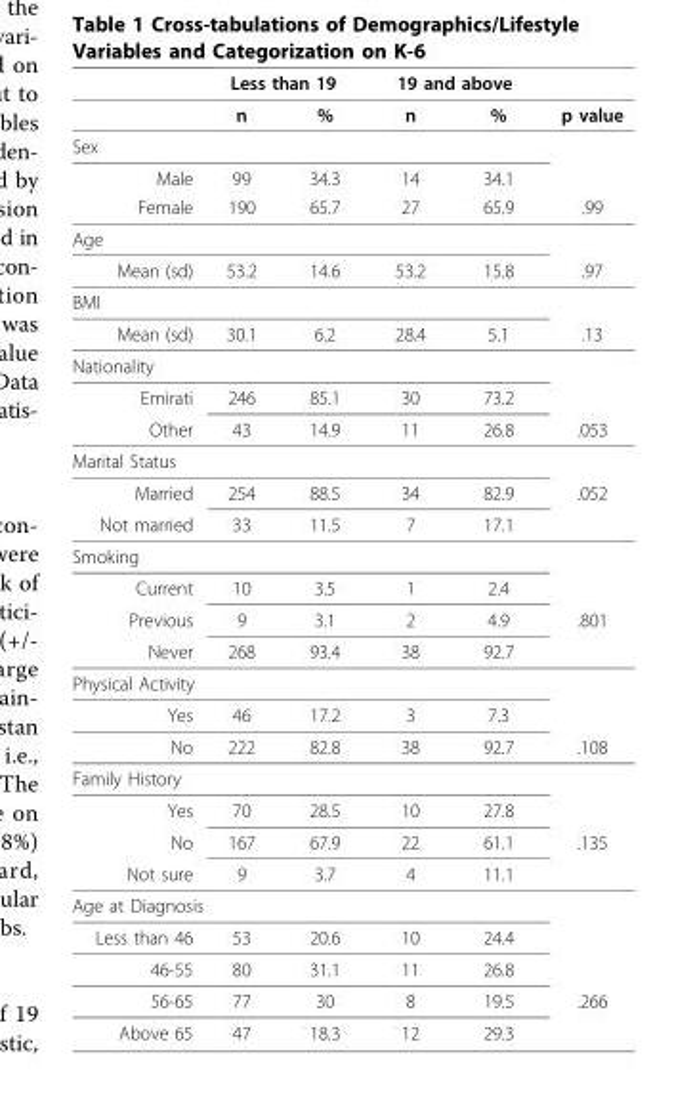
<table><thead><tr><td rowspan="2"></td><td colspan="2">Less than 19</td><td colspan="2">19 and above</td><td rowspan="2">p value</td></tr><tr><td>n</td><td>%</td><td>n</td><td>%</td></tr></thead><tbody><tr><td colspan="6">Sex</td></tr><tr><td>Male</td><td>99</td><td>34.3</td><td>14</td><td>34.1</td><td></td></tr><tr><td>Female</td><td>190</td><td>65.7</td><td>27</td><td>65.9</td><td>.99</td></tr><tr><td colspan="6">Age</td></tr><tr><td>Mean (sd)</td><td>53.2</td><td>14.6</td><td>53.2</td><td>15.8</td><td>.97</td></tr><tr><td colspan="6">BMI</td></tr><tr><td>Mean (sd)</td><td>30.1</td><td>6.2</td><td>28.4</td><td>5.1</td><td>.13</td></tr><tr><td colspan="6">Nationality</td></tr><tr><td>Emirati</td><td>246</td><td>85.1</td><td>30</td><td>73.2</td><td></td></tr><tr><td>Other</td><td>43</td><td>14.9</td><td>11</td><td>26.8</td><td>.053</td></tr><tr><td colspan="6">Marital Status</td></tr><tr><td>Married</td><td>254</td><td>88.5</td><td>34</td><td>82.9</td><td>.052</td></tr><tr><td>Not married</td><td>33</td><td>11.5</td><td>7</td><td>17.1</td><td></td></tr><tr><td colspan="6">Smoking</td></tr><tr><td>Current</td><td>10</td><td>3.5</td><td>1</td><td>2.4</td><td></td></tr><tr><td>Previous</td><td>9</td><td>3.1</td><td>2</td><td>4.9</td><td>.801</td></tr><tr><td>Never</td><td>268</td><td>93.4</td><td>38</td><td>92.7</td><td></td></tr><tr><td colspan="6">Physical Activity</td></tr><tr><td>Yes</td><td>46</td><td>17.2</td><td>3</td><td>7.3</td><td></td></tr><tr><td>No</td><td>222</td><td>82.8</td><td>38</td><td>92.7</td><td>.108</td></tr><tr><td colspan="6">Family History</td></tr><tr><td>Yes</td><td>70</td><td>28.5</td><td>10</td><td>27.8</td><td></td></tr><tr><td>No</td><td>167</td><td>67.9</td><td>22</td><td>61.1</td><td>.135</td></tr><tr><td>Not sure</td><td>9</td><td>3.7</td><td>4</td><td>11.1</td><td></td></tr><tr><td colspan="6">Age at Diagnosis</td></tr><tr><td>Less than 46</td><td>53</td><td>20.6</td><td>10</td><td>24.4</td><td></td></tr><tr><td>46-55</td><td>80</td><td>31.1</td><td>11</td><td>26.8</td><td></td></tr><tr><td>56-65</td><td>77</td><td>30</td><td>8</td><td>19.5</td><td>.266</td></tr><tr><td>Above 65</td><td>47</td><td>18.3</td><td>12</td><td>29.3</td><td></td></tr></tbody></table>